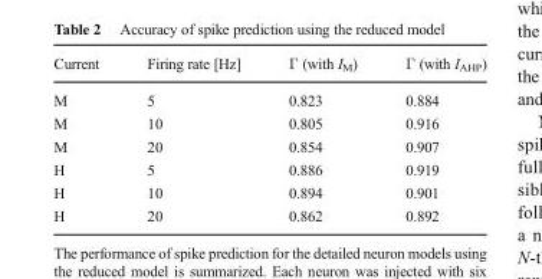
<table><thead><tr><td>Current</td><td>Firing rate [Hz]</td><td>Γ (with I<sub>M</sub>)</td><td>Γ (with I<sub>AHP</sub>)</td></tr></thead><tbody><tr><td>M</td><td>5</td><td>0.823</td><td>0.884</td></tr><tr><td>M</td><td>10</td><td>0.805</td><td>0.916</td></tr><tr><td>M</td><td>20</td><td>0.854</td><td>0.907</td></tr><tr><td>H</td><td>5</td><td>0.886</td><td>0.919</td></tr><tr><td>H</td><td>10</td><td>0.894</td><td>0.901</td></tr><tr><td>H</td><td>20</td><td>0.862</td><td>0.892</td></tr></tbody></table>